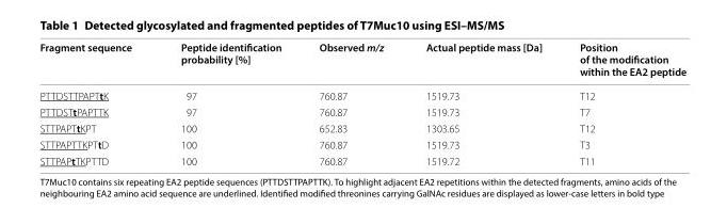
<table><thead><tr><td>Fragment sequence</td><td>Peptide identification probability [%]</td><td>Observed m/z</td><td>Actual peptide mass [Da]</td><td>Position of the modification within the EA2 peptide</td></tr></thead><tbody><tr><td>PTTDSTTPAPTtK</td><td>97</td><td>760.87</td><td>1519.73</td><td>T12</td></tr><tr><td>PTTDSTtPAPTTK</td><td>97</td><td>760.87</td><td>1519.73</td><td>T7</td></tr><tr><td>STTPAPTtKPT</td><td>100</td><td>652.83</td><td>1303.65</td><td>T12</td></tr><tr><td>STTPAPTTKPTtD</td><td>100</td><td>760.87</td><td>1519.73</td><td>T3</td></tr><tr><td>STTPAPtTKPTTD</td><td>100</td><td>760.87</td><td>1519.72</td><td>T11</td></tr></tbody></table>